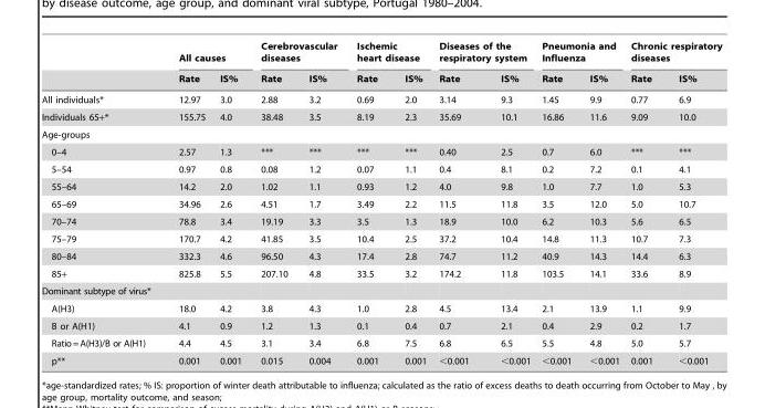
<table><thead><tr><td rowspan="2"></td><td colspan="2">All causes</td><td colspan="2">Cerebrovascular diseases</td><td colspan="2">Ischemic heart disease</td><td colspan="2">Diseases of the respiratory system</td><td colspan="2">Pneumonia and Influenza</td><td colspan="2">Chronic respiratory diseases</td></tr><tr><td>Rate</td><td>IS%</td><td>Rate</td><td>IS%</td><td>Rate</td><td>IS%</td><td>Rate</td><td>IS%</td><td>Rate</td><td>IS%</td><td>Rate</td><td>IS%</td></tr></thead><tbody><tr><td>All individuals*</td><td>12.97</td><td>3.0</td><td>2.88</td><td>3.2</td><td>0.69</td><td>2.0</td><td>3.14</td><td>9.3</td><td>1.45</td><td>9.9</td><td>0.77</td><td>6.9</td></tr><tr><td>Individuals 65+*</td><td>155.75</td><td>4.0</td><td>38.48</td><td>3.5</td><td>8.19</td><td>2.3</td><td>35.69</td><td>10.1</td><td>16.86</td><td>11.6</td><td>9.09</td><td>10.0</td></tr><tr><td colspan="13">Age-groups</td></tr><tr><td>0–4</td><td>2.57</td><td>1.3</td><td>***</td><td>***</td><td>***</td><td>***</td><td>0.40</td><td>2.5</td><td>0.7</td><td>6.0</td><td>***</td><td>***</td></tr><tr><td>5–54</td><td>0.97</td><td>0.8</td><td>0.08</td><td>1.2</td><td>0.07</td><td>1.1</td><td>0.4</td><td>8.1</td><td>0.2</td><td>7.2</td><td>0.1</td><td>4.1</td></tr><tr><td>55–64</td><td>14.2</td><td>2.0</td><td>1.02</td><td>1.1</td><td>0.93</td><td>1.2</td><td>4.0</td><td>9.8</td><td>1.0</td><td>7.7</td><td>1.0</td><td>5.3</td></tr><tr><td>65–69</td><td>34.96</td><td>2.6</td><td>4.51</td><td>1.7</td><td>3.49</td><td>2.2</td><td>11.5</td><td>11.8</td><td>3.5</td><td>12.0</td><td>5.0</td><td>10.7</td></tr><tr><td>70–74</td><td>78.8</td><td>3.4</td><td>19.19</td><td>3.3</td><td>3.5</td><td>1.3</td><td>18.9</td><td>10.0</td><td>6.2</td><td>10.3</td><td>5.6</td><td>6.5</td></tr><tr><td>75–79</td><td>170.7</td><td>4.2</td><td>41.85</td><td>3.5</td><td>10.4</td><td>2.5</td><td>37.2</td><td>10.4</td><td>14.8</td><td>11.3</td><td>10.7</td><td>7.3</td></tr><tr><td>80–84</td><td>332.3</td><td>4.6</td><td>96.50</td><td>4.3</td><td>17.4</td><td>2.8</td><td>74.7</td><td>11.2</td><td>40.9</td><td>14.3</td><td>14.4</td><td>6.3</td></tr><tr><td>85+</td><td>825.8</td><td>5.5</td><td>207.10</td><td>4.8</td><td>33.5</td><td>3.2</td><td>174.2</td><td>11.8</td><td>103.5</td><td>14.1</td><td>33.6</td><td>8.9</td></tr><tr><td colspan="13">Dominant subtype of virus*</td></tr><tr><td>A(H3)</td><td>18.0</td><td>4.2</td><td>3.8</td><td>4.3</td><td>1.0</td><td>2.8</td><td>4.5</td><td>13.4</td><td>2.1</td><td>13.9</td><td>1.1</td><td>9.9</td></tr><tr><td>B or A(H1)</td><td>4.1</td><td>0.9</td><td>1.2</td><td>1.3</td><td>0.1</td><td>0.4</td><td>0.7</td><td>2.1</td><td>0.4</td><td>2.9</td><td>0.2</td><td>1.7</td></tr><tr><td>Ratio=A(H3)/B or A(H1)</td><td>4.4</td><td>4.5</td><td>3.1</td><td>3.4</td><td>6.8</td><td>7.5</td><td>6.8</td><td>6.5</td><td>5.5</td><td>4.8</td><td>5.0</td><td>5.7</td></tr><tr><td>p**</td><td>0.001</td><td>0.001</td><td>0.015</td><td>0.004</td><td>0.001</td><td>0.001</td><td>&lt;0.001</td><td>&lt;0.001</td><td>&lt;0.001</td><td>&lt;0.001</td><td>0.001</td><td>&lt;0.001</td></tr></tbody></table>